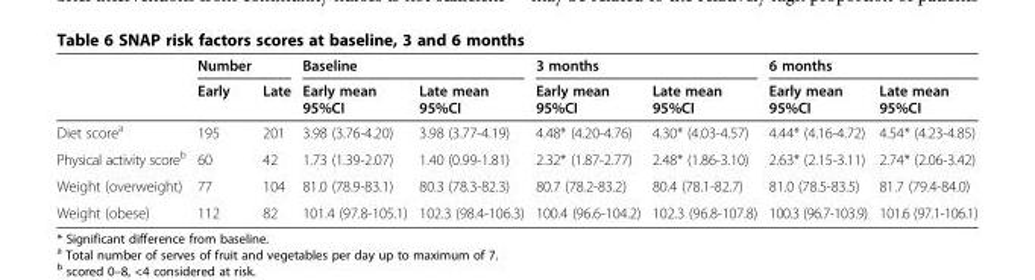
<table><thead><tr><td rowspan="2"></td><td rowspan="2">Number Early</td><td rowspan="2">Late</td><td colspan="2">Baseline</td><td colspan="2">3 months</td><td colspan="2">6 months</td></tr><tr><td>Early mean 95%CI</td><td>Late mean 95%CI</td><td>Early mean 95%CI</td><td>Late mean 95%CI</td><td>Early mean 95%CI</td><td>Late mean 95%CI</td></tr></thead><tbody><tr><td>Diet score<sup>a</sup></td><td>195</td><td>201</td><td>3.98 (3.76-4.20)</td><td>3.98 (3.77-4.19)</td><td>4.48* (4.20-4.76)</td><td>4.30* (4.03-4.57)</td><td>4.44* (4.16-4.72)</td><td>4.54* (4.23-4.85)</td></tr><tr><td>Physical activity score<sup>b</sup></td><td>60</td><td>42</td><td>1.73 (1.39-2.07)</td><td>1.40 (0.99-1.81)</td><td>2.32* (1.87-2.77)</td><td>2.48* (1.86-3.10)</td><td>2.63* (2.15-3.11)</td><td>2.74* (2.06-3.42)</td></tr><tr><td>Weight (overweight)</td><td>77</td><td>104</td><td>81.0 (78.9-83.1)</td><td>80.3 (78.3-82.3)</td><td>80.7 (78.2-83.2)</td><td>80.4 (78.1-82.7)</td><td>81.0 (78.5-83.5)</td><td>81.7 (79.4-84.0)</td></tr><tr><td>Weight (obese)</td><td>112</td><td>82</td><td>101.4 (97.8-105.1)</td><td>102.3 (98.4-106.3)</td><td>100.4 (96.6-104.2)</td><td>102.3 (96.8-107.8)</td><td>100.3 (96.7-103.9)</td><td>101.6 (97.1-106.1)</td></tr></tbody></table>